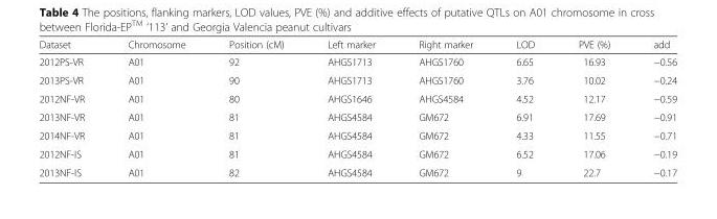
<table><thead><tr><td>Dataset</td><td>Chromosome</td><td>Position (cM)</td><td>Left marker</td><td>Right marker</td><td>LOD</td><td>PVE (%)</td><td>add</td></tr></thead><tbody><tr><td>2012PS-VR</td><td>A01</td><td>92</td><td>AHGS1713</td><td>AHGS1760</td><td>6.65</td><td>16.93</td><td>−0.56</td></tr><tr><td>2013PS-VR</td><td>A01</td><td>90</td><td>AHGS1713</td><td>AHGS1760</td><td>3.76</td><td>10.02</td><td>−0.24</td></tr><tr><td>2012NF-VR</td><td>A01</td><td>80</td><td>AHGS1646</td><td>AHGS4584</td><td>4.52</td><td>12.17</td><td>−0.59</td></tr><tr><td>2013NF-VR</td><td>A01</td><td>81</td><td>AHGS4584</td><td>GM672</td><td>6.91</td><td>17.69</td><td>−0.91</td></tr><tr><td>2014NF-VR</td><td>A01</td><td>81</td><td>AHGS4584</td><td>GM672</td><td>4.33</td><td>11.55</td><td>−0.71</td></tr><tr><td>2012NF-IS</td><td>A01</td><td>81</td><td>AHGS4584</td><td>GM672</td><td>6.52</td><td>17.06</td><td>−0.19</td></tr><tr><td>2013NF-IS</td><td>A01</td><td>82</td><td>AHGS4584</td><td>GM672</td><td>9</td><td>22.7</td><td>−0.17</td></tr></tbody></table>